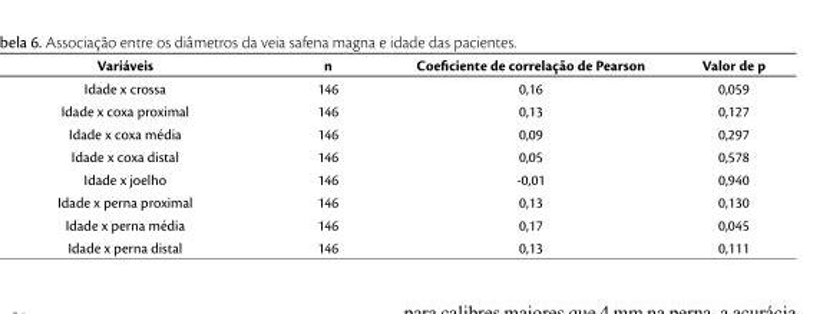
<table><thead><tr><td>Variáveis</td><td>n</td><td>Coeficiente de correlação de Pearson</td><td>Valor de p</td></tr></thead><tbody><tr><td>Idade x crossa</td><td>146</td><td>0,16</td><td>0,059</td></tr><tr><td>Idade x coxa proximal</td><td>146</td><td>0,13</td><td>0,127</td></tr><tr><td>Idade x coxa média</td><td>146</td><td>0,09</td><td>0,297</td></tr><tr><td>Idade x coxa distal</td><td>146</td><td>0,05</td><td>0,578</td></tr><tr><td>Idade x joelho</td><td>146</td><td>-0,01</td><td>0,940</td></tr><tr><td>Idade x perna proximal</td><td>146</td><td>0,13</td><td>0,130</td></tr><tr><td>Idade x perna média</td><td>146</td><td>0,17</td><td>0,045</td></tr><tr><td>Idade x perna distal</td><td>146</td><td>0,13</td><td>0,111</td></tr></tbody></table>